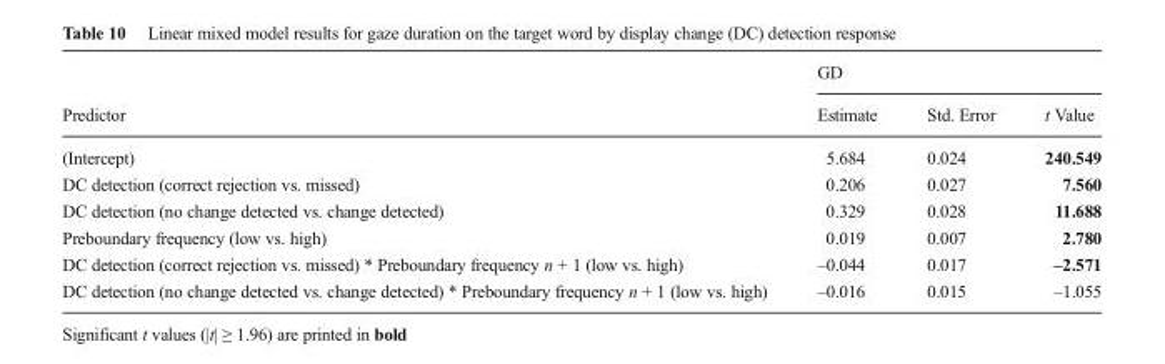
<table><thead><tr><td rowspan="2">Predictor</td><td colspan="3">GD</td></tr><tr><td>Estimate</td><td>Std. Error</td><td>t Value</td></tr></thead><tbody><tr><td>(Intercept)</td><td>5.684</td><td>0.024</td><td>240.549</td></tr><tr><td>DC detection (correct rejection vs. missed)</td><td>0.206</td><td>0.027</td><td>7.560</td></tr><tr><td>DC detection (no change detected vs. change detected)</td><td>0.329</td><td>0.028</td><td>11.688</td></tr><tr><td>Preboundary frequency (low vs. high)</td><td>0.019</td><td>0.007</td><td>2.780</td></tr><tr><td>DC detection (correct rejection vs. missed) * Preboundary frequency n + 1 (low vs. high)</td><td>–0.044</td><td>0.017</td><td>–2.571</td></tr><tr><td>DC detection (no change detected vs. change detected) * Preboundary frequency n + 1 (low vs. high)</td><td>–0.016</td><td>0.015</td><td>–1.055</td></tr></tbody></table>